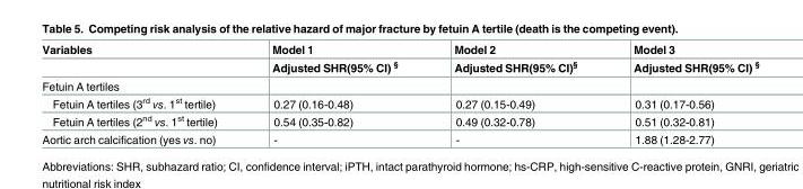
<table><thead><tr><td rowspan="2">Variables</td><td rowspan="2">Model 1 Adjusted SHR(95% CI) <sup>§</sup></td><td rowspan="2">Model 2 Adjusted SHR(95% CI)<sup>§</sup></td><td rowspan="2">Model 3 Adjusted SHR(95% CI) <sup>§</sup></td></tr><tr></tr></thead><tbody><tr><td colspan="4">Fetuin A tertiles</td></tr><tr><td>Fetuin A tertiles (3<sup>rd</sup> vs. 1<sup>st</sup> tertile)</td><td>0.27 (0.16-0.48)</td><td>0.27 (0.15-0.49)</td><td>0.31 (0.17-0.56)</td></tr><tr><td>Fetuin A tertiles (2<sup>nd</sup> vs. 1<sup>st</sup> tertile)</td><td>0.54 (0.35-0.82)</td><td>0.49 (0.32-0.78)</td><td>0.51 (0.32-0.81)</td></tr><tr><td>Aortic arch calcification (yes vs. no)</td><td>-</td><td>-</td><td>1.88 (1.28-2.77)</td></tr></tbody></table>